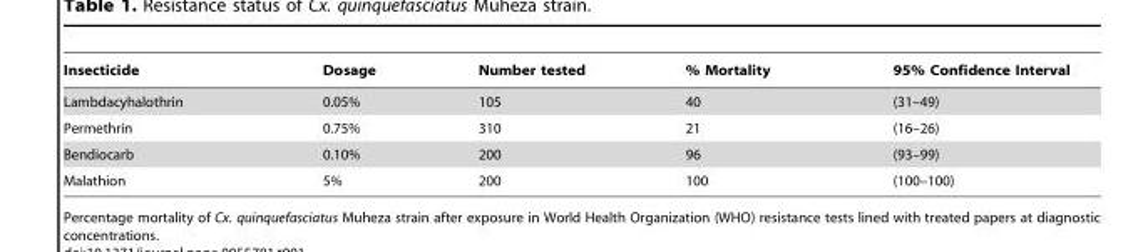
<table><thead><tr><td>Insecticide</td><td>Dosage</td><td>Number tested</td><td>% Mortality</td><td>95% Confidence Interval</td></tr></thead><tbody><tr><td>Lambdacyhalothrin</td><td>0.05%</td><td>105</td><td>40</td><td>(31–49)</td></tr><tr><td>Permethrin</td><td>0.75%</td><td>310</td><td>21</td><td>(16–26)</td></tr><tr><td>Bendiocarb</td><td>0.10%</td><td>200</td><td>96</td><td>(93–99)</td></tr><tr><td>Malathion</td><td>5%</td><td>200</td><td>100</td><td>(100–100)</td></tr></tbody></table>